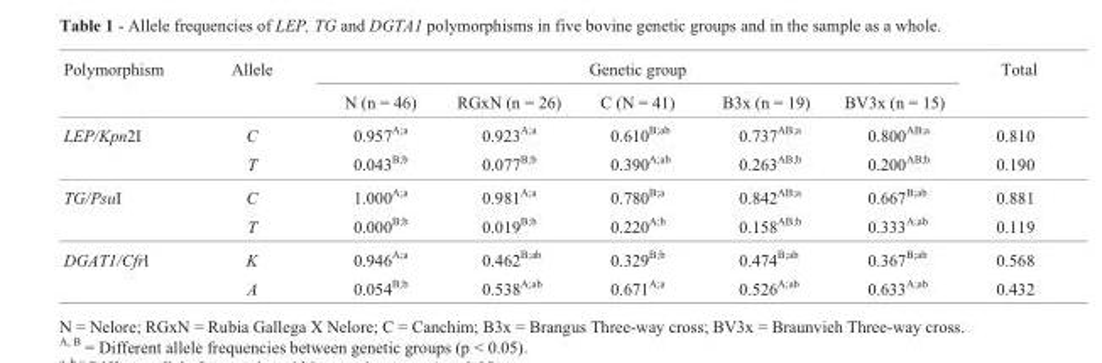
<table><thead><tr><td rowspan="2">Polymorphism</td><td rowspan="2">Allele</td><td colspan="5">Genetic group</td><td rowspan="2">Total</td></tr><tr><td>N (n = 46)</td><td>RGxN (n = 26)</td><td>C (N = 41)</td><td>B3x (n = 19)</td><td>BV3x (n = 15)</td></tr></thead><tbody><tr><td rowspan="2">LEP/Kpn2I</td><td>C</td><td>0.957<sup>A;a</sup></td><td>0.923<sup>A;a</sup></td><td>0.610<sup>B;ab</sup></td><td>0.737<sup>AB;a</sup></td><td>0.800<sup>AB;a</sup></td><td>0.810</td></tr><tr><td>T</td><td>0.043<sup>B;b</sup></td><td>0.077<sup>B;b</sup></td><td>0.390<sup>A;ab</sup></td><td>0.263<sup>AB;b</sup></td><td>0.200<sup>AB;b</sup></td><td>0.190</td></tr><tr><td rowspan="2">TG/PsuI</td><td>C</td><td>1.000<sup>A;a</sup></td><td>0.981<sup>A;a</sup></td><td>0.780<sup>B;a</sup></td><td>0.842<sup>AB;a</sup></td><td>0.667<sup>B;ab</sup></td><td>0.881</td></tr><tr><td>T</td><td>0.000<sup>B;b</sup></td><td>0.019<sup>B;b</sup></td><td>0.220<sup>A;b</sup></td><td>0.158<sup>AB;b</sup></td><td>0.333<sup>A;ab</sup></td><td>0.119</td></tr><tr><td rowspan="2">DGAT1/Cfrl</td><td>K</td><td>0.946<sup>A;a</sup></td><td>0.462<sup>B;ab</sup></td><td>0.329<sup>B;b</sup></td><td>0.474<sup>B;ab</sup></td><td>0.367<sup>B;ab</sup></td><td>0.568</td></tr><tr><td>A</td><td>0.054<sup>B;b</sup></td><td>0.538<sup>A;ab</sup></td><td>0.671<sup>A;a</sup></td><td>0.526<sup>A;ab</sup></td><td>0.633<sup>A;ab</sup></td><td>0.432</td></tr></tbody></table>